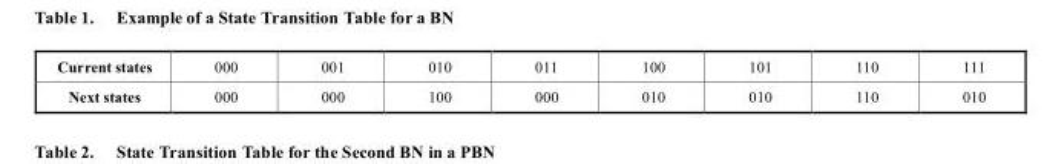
<table><tbody><tr><td>Current states</td><td>000</td><td>001</td><td>010</td><td>011</td><td>100</td><td>101</td><td>110</td><td>111</td></tr><tr><td>Next states</td><td>000</td><td>000</td><td>100</td><td>000</td><td>010</td><td>010</td><td>110</td><td>010</td></tr></tbody></table>